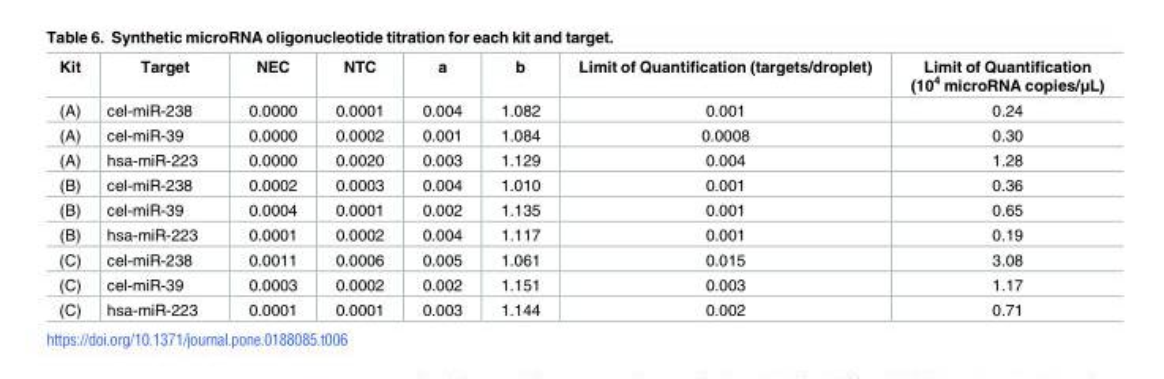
<table><thead><tr><td>Kit</td><td>Target</td><td>NEC</td><td>NTC</td><td>a</td><td>b</td><td>Limit of Quantification (targets/droplet)</td><td>Limit of Quantification (10<sup>4</sup> microRNA copies/μL)</td></tr></thead><tbody><tr><td>(A)</td><td>cel-miR-238</td><td>0.0000</td><td>0.0001</td><td>0.004</td><td>1.082</td><td>0.001</td><td>0.24</td></tr><tr><td>(A)</td><td>cel-miR-39</td><td>0.0000</td><td>0.0002</td><td>0.001</td><td>1.084</td><td>0.0008</td><td>0.30</td></tr><tr><td>(A)</td><td>hsa-miR-223</td><td>0.0000</td><td>0.0020</td><td>0.003</td><td>1.129</td><td>0.004</td><td>1.28</td></tr><tr><td>(B)</td><td>cel-miR-238</td><td>0.0002</td><td>0.0003</td><td>0.004</td><td>1.010</td><td>0.001</td><td>0.36</td></tr><tr><td>(B)</td><td>cel-miR-39</td><td>0.0004</td><td>0.0001</td><td>0.002</td><td>1.135</td><td>0.001</td><td>0.65</td></tr><tr><td>(B)</td><td>hsa-miR-223</td><td>0.0001</td><td>0.0002</td><td>0.004</td><td>1.117</td><td>0.001</td><td>0.19</td></tr><tr><td>(C)</td><td>cel-miR-238</td><td>0.0011</td><td>0.0006</td><td>0.005</td><td>1.061</td><td>0.015</td><td>3.08</td></tr><tr><td>(C)</td><td>cel-miR-39</td><td>0.0003</td><td>0.0002</td><td>0.002</td><td>1.151</td><td>0.003</td><td>1.17</td></tr><tr><td>(C)</td><td>hsa-miR-223</td><td>0.0001</td><td>0.0001</td><td>0.003</td><td>1.144</td><td>0.002</td><td>0.71</td></tr></tbody></table>